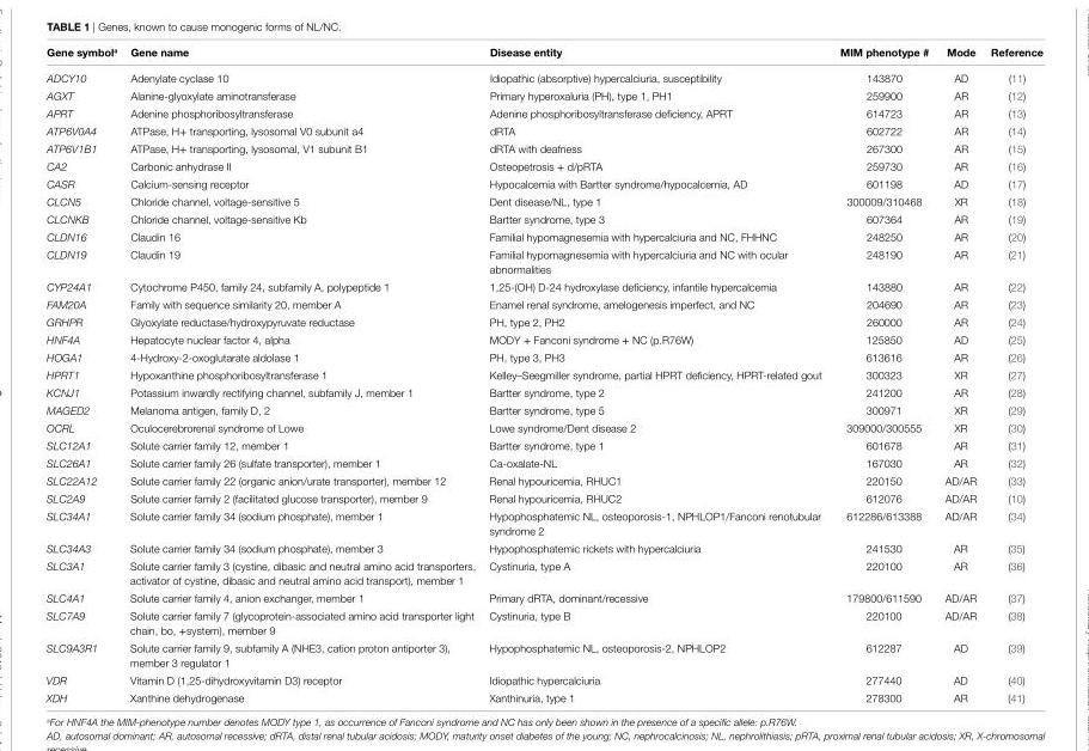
<table><thead><tr><td>Gene symbol<sup>a</sup></td><td>Gene name</td><td>Disease entity</td><td>MiM phenotype #</td><td>Mode</td><td>reference</td></tr></thead><tbody><tr><td>ADCY10</td><td>Adenylate cyclase 10</td><td>Idiopathic (absorptive) hypercalciuria, susceptibility</td><td>143870</td><td>AD</td><td>(11)</td></tr><tr><td>AGXT</td><td>Alanine-glyoxylate aminotransferase</td><td>Primary hyperoxaluria (PH), type 1, PH1</td><td>259900</td><td>AR</td><td>(12)</td></tr><tr><td>APRT</td><td>Adenine phosphoribosyltransferase</td><td>Adenine phosphoribosyltransferase deficiency, APRT</td><td>614723</td><td>AR</td><td>(13)</td></tr><tr><td>ATP6V0A4</td><td>ATPase, H+ transporting, lysosomal V0 subunit a4</td><td>dRTA</td><td>602722</td><td>AR</td><td>(14)</td></tr><tr><td>ATP6V1B1</td><td>ATPase, H+ transporting, lysosomal, V1 subunit B1</td><td>dRTA with deafness</td><td>267300</td><td>AR</td><td>(15)</td></tr><tr><td>CA2</td><td>Carbonic anhydrase II</td><td>Osteopetrosis + d/pRTA</td><td>259730</td><td>AR</td><td>(16)</td></tr><tr><td>CASR</td><td>Calcium-sensing receptor</td><td>Hypocalcemia with Bartter syndrome/hypocalcemia, AD</td><td>601198</td><td>AD</td><td>(17)</td></tr><tr><td>CLCN5</td><td>Chloride channel, voltage-sensitive 5</td><td>Dent disease/NL, type 1</td><td>300009/310468</td><td>XR</td><td>(18)</td></tr><tr><td>CLCNKB</td><td>Chloride channel, voltage-sensitive Kb</td><td>Bartter syndrome, type 3</td><td>607364</td><td>AR</td><td>(19)</td></tr><tr><td>CLDN16</td><td>Claudin 16</td><td>Familial hypomagnesemia with hypercalciuria and NC, FHHNC</td><td>248250</td><td>AR</td><td>(20)</td></tr><tr><td>CLDN19</td><td>Claudin 19</td><td>Familial hypomagnesemia with hypercalciuria and NC with ocular abnormalities</td><td>248190</td><td>AR</td><td>(21)</td></tr><tr><td>CYP24A1</td><td>Cytochrome P450, family 24, subfamily A, polypeptide 1</td><td>1,25-(OH) D-24 hydroxylase deficiency, infantile hypercalcemia</td><td>143880</td><td>AR</td><td>(22)</td></tr><tr><td>FAM20A</td><td>Family with sequence similarity 20, member A</td><td>Enamel renal syndrome, amelogenesis imperfect, and NC</td><td>204690</td><td>AR</td><td>(23)</td></tr><tr><td>GRHPR</td><td>Glyoxylate reductase/hydroxypyruvate reductase</td><td>PH, type 2, PH2</td><td>260000</td><td>AR</td><td>(24)</td></tr><tr><td>HNF4A</td><td>Hepatocyte nuclear factor 4, alpha</td><td>MODY + Fanconi syndrome + NC (p.R76W)</td><td>125850</td><td>AD</td><td>(25)</td></tr><tr><td>HOGA1</td><td>4-Hydroxy-2-oxoglutarate aldolase 1</td><td>PH, type 3, PH3</td><td>613616</td><td>AR</td><td>(26)</td></tr><tr><td>HPRT1</td><td>Hypoxanthine phosphoribosyltransferase 1</td><td>Kelley–Seegmiller syndrome, partial HPRT deficiency, HPRT-related gout</td><td>300323</td><td>XR</td><td>(27)</td></tr><tr><td>KCNJ1</td><td>Potassium inwardly rectifying channel, subfamily J, member 1</td><td>Bartter syndrome, type 2</td><td>241200</td><td>AR</td><td>(28)</td></tr><tr><td>MAGED2</td><td>Melanoma antigen, family D, 2</td><td>Bartter syndrome, type 5</td><td>300971</td><td>XR</td><td>(29)</td></tr><tr><td>OCRL</td><td>Oculocerebrorenal syndrome of Lowe</td><td>Lowe syndrome/Dent disease 2</td><td>309000/300555</td><td>XR</td><td>(30)</td></tr><tr><td>SLC12A1</td><td>Solute carrier family 12, member 1</td><td>Bartter syndrome, type 1</td><td>601678</td><td>AR</td><td>(31)</td></tr><tr><td>SLC26A1</td><td>Solute carrier family 26 (sulfate transporter), member 1</td><td>Ca-oxalate-NL</td><td>167030</td><td>AR</td><td>(32)</td></tr><tr><td>SLC22A12</td><td>Solute carrier family 22 (organic anion/urate transporter), member 12</td><td>Renal hypouricemia, RHUC1</td><td>220150</td><td>AD/AR</td><td>(33)</td></tr><tr><td>SLC2A9</td><td>Solute carrier family 2 (facilitated glucose transporter), member 9</td><td>Renal hypouricemia, RHUC2</td><td>612076</td><td>AD/AR</td><td>(10)</td></tr><tr><td>SLC34A1</td><td>Solute carrier family 34 (sodium phosphate), member 1</td><td>Hypophosphatemic NL, osteoporosis-1, NPHLOP1/Fanconi renotubular syndrome 2</td><td>612286/613388</td><td>AD/AR</td><td>(34)</td></tr><tr><td>SLC34A3</td><td>Solute carrier family 34 (sodium phosphate), member 3</td><td>Hypophosphatemic rickets with hypercalciuria</td><td>241530</td><td>AR</td><td>(35)</td></tr><tr><td>SLC3A1</td><td>Solute carrier family 3 (cystine, dibasic and neutral amino acid transporters, activator of cystine, dibasic and neutral amino acid transport), member 1</td><td>Cystinuria, type A</td><td>220100</td><td>AR</td><td>(36)</td></tr><tr><td>SLC4A1</td><td>Solute carrier family 4, anion exchanger, member 1</td><td>Primary dRTA, dominant/recessive</td><td>179800/611590</td><td>AD/AR</td><td>(37)</td></tr><tr><td>SLC7A9</td><td>Solute carrier family 7 (glycoprotein-associated amino acid transporter light chain, bo, +system), member 9</td><td>Cystinuria, type B</td><td>220100</td><td>AD/AR</td><td>(38)</td></tr><tr><td>SLC9A3R1</td><td>Solute carrier family 9, subfamily A (NHE3, cation proton antiporter 3), member 3 regulator 1</td><td>Hypophosphatemic NL, osteoporosis-2, NPHLOP2</td><td>612287</td><td>AD</td><td>(39)</td></tr><tr><td>VDR</td><td>Vitamin D (1,25-dihydroxyvitamin D3) receptor</td><td>Idiopathic hypercalciuria</td><td>277440</td><td>AD</td><td>(40)</td></tr><tr><td>XDH</td><td>Xanthine dehydrogenase</td><td>Xanthinuria, type 1</td><td>278300</td><td>AR</td><td>(41)</td></tr></tbody></table>